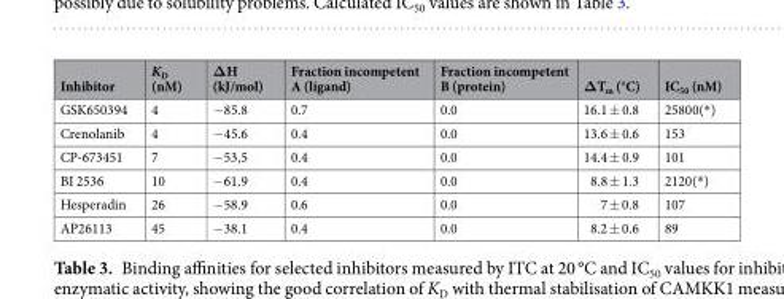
<table><thead><tr><td>Inhibitor</td><td>K<sub>D</sub> (nM)</td><td>ΔH (kJ/mol)</td><td>Fraction incompetent A (ligand)</td><td>Fraction incompetent B (protein)</td><td>ΔT<sub>m</sub> (°C)</td><td>IC<sub>50</sub> (nM)</td></tr></thead><tbody><tr><td>GSK650394</td><td>4</td><td>−85.8</td><td>0.7</td><td>0.0</td><td>16.1 ± 0.8</td><td>25800(*)</td></tr><tr><td>Crenolanib</td><td>4</td><td>−45.6</td><td>0.4</td><td>0.0</td><td>13.6 ± 0.6</td><td>153</td></tr><tr><td>CP-673451</td><td>7</td><td>−53,5</td><td>0.4</td><td>0.0</td><td>14.4 ± 0.9</td><td>101</td></tr><tr><td>BI 2536</td><td>10</td><td>−61.9</td><td>0.4</td><td>0.0</td><td>8.8 ± 1.3</td><td>2120(*)</td></tr><tr><td>Hesperadin</td><td>26</td><td>−58.9</td><td>0.6</td><td>0.0</td><td>7 ± 0.8</td><td>107</td></tr><tr><td>AP26113</td><td>45</td><td>−38.1</td><td>0.4</td><td>0.0</td><td>8.2 ± 0.6</td><td>89</td></tr></tbody></table>